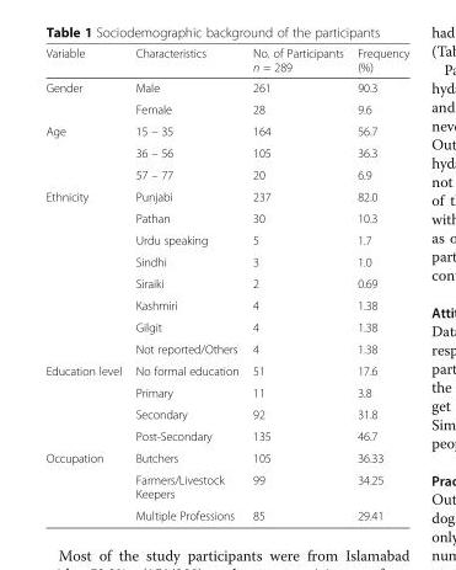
<table><thead><tr><td>Variable</td><td>Characteristics</td><td>No. of Participants n = 289</td><td>Frequency (%)</td></tr></thead><tbody><tr><td rowspan="2">Gender</td><td>Male</td><td>261</td><td>90.3</td></tr><tr><td>Female</td><td>28</td><td>9.6</td></tr><tr><td rowspan="3">Age</td><td>15 – 35</td><td>164</td><td>56.7</td></tr><tr><td>36 – 56</td><td>105</td><td>36.3</td></tr><tr><td>57 – 77</td><td>20</td><td>6.9</td></tr><tr><td rowspan="8">Ethnicity</td><td>Punjabi</td><td>237</td><td>82.0</td></tr><tr><td>Pathan</td><td>30</td><td>10.3</td></tr><tr><td>Urdu speaking</td><td>5</td><td>1.7</td></tr><tr><td>Sindhi</td><td>3</td><td>1.0</td></tr><tr><td>Siraiki</td><td>2</td><td>0.69</td></tr><tr><td>Kashmiri</td><td>4</td><td>1.38</td></tr><tr><td>Gilgit</td><td>4</td><td>1.38</td></tr><tr><td>Not reported/Others</td><td>4</td><td>1.38</td></tr><tr><td rowspan="4">Education level</td><td>No formal education</td><td>51</td><td>17.6</td></tr><tr><td>Primary</td><td>11</td><td>3.8</td></tr><tr><td>Secondary</td><td>92</td><td>31.8</td></tr><tr><td>Post-Secondary</td><td>135</td><td>46.7</td></tr><tr><td rowspan="3">Occupation</td><td>Butchers</td><td>105</td><td>36.33</td></tr><tr><td>Farmers/Livestock Keepers</td><td>99</td><td>34.25</td></tr><tr><td>Multiple Professions</td><td>85</td><td>29.41</td></tr></tbody></table>